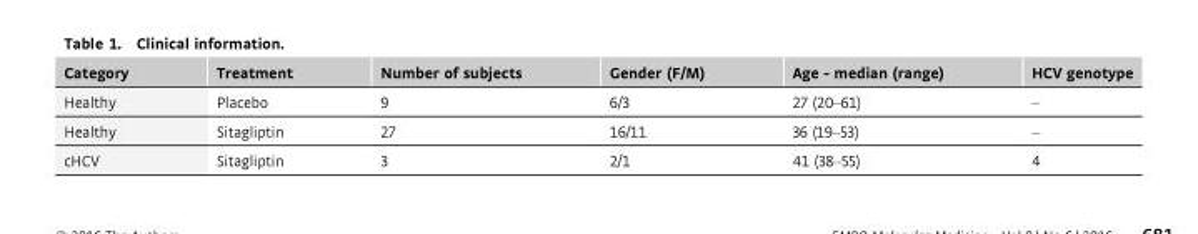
<table><thead><tr><td>Category</td><td>Treatment</td><td>Number of subjects</td><td>Gender (F/M)</td><td>Age - median (range)</td><td>HCV genotype</td></tr></thead><tbody><tr><td>Healthy</td><td>Placebo</td><td>9</td><td>6/3</td><td>27 (20–61)</td><td>–</td></tr><tr><td>Healthy</td><td>Sitagliptin</td><td>27</td><td>16/11</td><td>36 (19–53)</td><td>–</td></tr><tr><td>cHCV</td><td>Sitagliptin</td><td>3</td><td>2/1</td><td>41 (38–55)</td><td>4</td></tr></tbody></table>